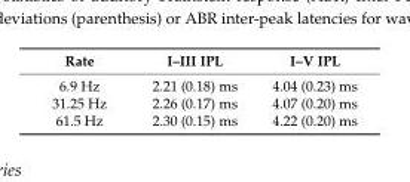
<table><thead><tr><td>Rate</td><td>I–III IPL</td><td>I–V IPL</td></tr></thead><tbody><tr><td>6.9 Hz</td><td>2.21 (0.18) ms</td><td>4.04 (0.23) ms</td></tr><tr><td>31.25 Hz</td><td>2.26 (0.17) ms</td><td>4.07 (0.20) ms</td></tr><tr><td>61.5 Hz</td><td>2.30 (0.15) ms</td><td>4.22 (0.20) ms</td></tr></tbody></table>